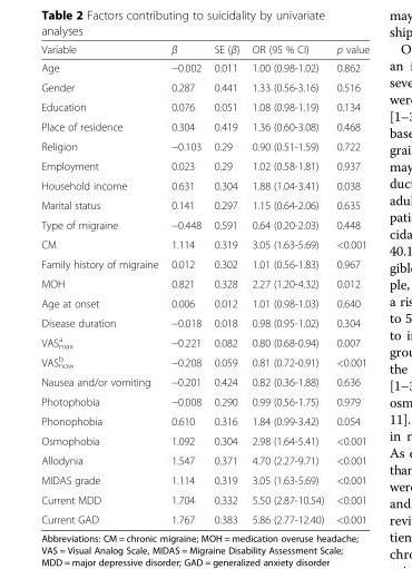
<table><thead><tr><td>Variable</td><td>β</td><td>SE (β)</td><td>OR (95 % CI)</td><td>p value</td></tr></thead><tbody><tr><td>Age</td><td>−0.002</td><td>0.011</td><td>1.00 (0.98-1.02)</td><td>0.862</td></tr><tr><td>Gender</td><td>0.287</td><td>0.441</td><td>1.33 (0.56-3.16)</td><td>0.516</td></tr><tr><td>Education</td><td>0.076</td><td>0.051</td><td>1.08 (0.98-1.19)</td><td>0.134</td></tr><tr><td>Place of residence</td><td>0.304</td><td>0.419</td><td>1.36 (0.60-3.08)</td><td>0.468</td></tr><tr><td>Religion</td><td>−0.103</td><td>0.29</td><td>0.90 (0.51-1.59)</td><td>0.722</td></tr><tr><td>Employment</td><td>0.023</td><td>0.29</td><td>1.02 (0.58-1.81)</td><td>0.937</td></tr><tr><td>Household income</td><td>0.631</td><td>0.304</td><td>1.88 (1.04-3.41)</td><td>0.038</td></tr><tr><td>Marital status</td><td>0.141</td><td>0.297</td><td>1.15 (0.64-2.06)</td><td>0.635</td></tr><tr><td>Type of migraine</td><td>−0.448</td><td>0.591</td><td>0.64 (0.20-2.03)</td><td>0.448</td></tr><tr><td>CM</td><td>1.114</td><td>0.319</td><td>3.05 (1.63-5.69)</td><td>&lt;0.001</td></tr><tr><td>Family history of migraine</td><td>0.012</td><td>0.302</td><td>1.01 (0.56-1.83)</td><td>0.967</td></tr><tr><td>MOH</td><td>0.821</td><td>0.328</td><td>2.27 (1.20-4.32)</td><td>0.012</td></tr><tr><td>Age at onset</td><td>0.006</td><td>0.012</td><td>1.01 (0.98-1.03)</td><td>0.640</td></tr><tr><td>Disease duration</td><td>−0.018</td><td>0.018</td><td>0.98 (0.95-1.02)</td><td>0.304</td></tr><tr><td>VAS<sub>max</sub> <sup>a</sup></td><td>−0.221</td><td>0.082</td><td>0.80 (0.68-0.94)</td><td>0.007</td></tr><tr><td>VAS<sub>now</sub> <sup>b</sup></td><td>−0.208</td><td>0.059</td><td>0.81 (0.72-0.91)</td><td>&lt;0.001</td></tr><tr><td>Nausea and/or vomiting</td><td>−0.201</td><td>0.424</td><td>0.82 (0.36-1.88)</td><td>0.636</td></tr><tr><td>Photophobia</td><td>−0.008</td><td>0.290</td><td>0.99 (0.56-1.75)</td><td>0.979</td></tr><tr><td>Phonophobia</td><td>0.610</td><td>0.316</td><td>1.84 (0.99-3.42)</td><td>0.054</td></tr><tr><td>Osmophobia</td><td>1.092</td><td>0.304</td><td>2.98 (1.64-5.41)</td><td>&lt;0.001</td></tr><tr><td>Allodynia</td><td>1.547</td><td>0.371</td><td>4.70 (2.27-9.71)</td><td>&lt;0.001</td></tr><tr><td>MIDAS grade</td><td>1.114</td><td>0.319</td><td>3.05 (1.63-5.69)</td><td>&lt;0.001</td></tr><tr><td>Current MDD</td><td>1.704</td><td>0.332</td><td>5.50 (2.87-10.54)</td><td>&lt;0.001</td></tr><tr><td>Current GAD</td><td>1.767</td><td>0.383</td><td>5.86 (2.77-12.40)</td><td>&lt;0.001</td></tr></tbody></table>